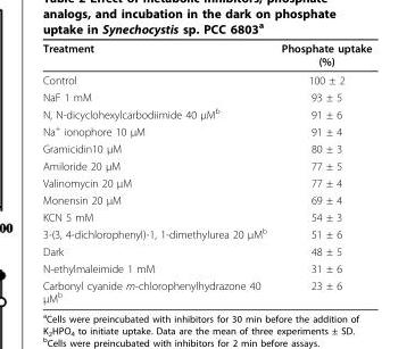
<table><thead><tr><td>Treatment</td><td>Phosphate uptake (%)</td></tr></thead><tbody><tr><td>Control</td><td>100 ± 2</td></tr><tr><td>NaF 1 mM</td><td>93 ± 5</td></tr><tr><td>N, N-dicyclohexylcarbodiimide 40 μM<sup>b</sup></td><td>91 ± 6</td></tr><tr><td>Na<sup>+</sup> ionophore 10 μM</td><td>91 ± 4</td></tr><tr><td>Gramicidin10 μM</td><td>80 ± 3</td></tr><tr><td>Amiloride 20 μM</td><td>77 ± 5</td></tr><tr><td>Valinomycin 20 μM</td><td>77 ± 4</td></tr><tr><td>Monensin 20 μM</td><td>69 ± 4</td></tr><tr><td>KCN 5 mM</td><td>54 ± 3</td></tr><tr><td>3-(3, 4-dichlorophenyl)-1, 1-dimethylurea 20 μM<sup>b</sup></td><td>51 ± 6</td></tr><tr><td>Dark</td><td>48 ± 5</td></tr><tr><td>N-ethylmaleimide 1 mM</td><td>31 ± 6</td></tr><tr><td>Carbonyl cyanide m-chlorophenylhydrazone 40 μM<sup>b</sup></td><td>23 ± 6</td></tr></tbody></table>